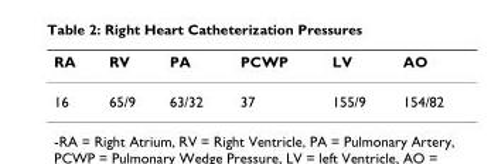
<table><thead><tr><td>RA</td><td>RV</td><td>PA</td><td>PCWP</td><td>LV</td><td>AO</td></tr></thead><tbody><tr><td>16</td><td>65/9</td><td>63/32</td><td>37</td><td>155/9</td><td>154/82</td></tr></tbody></table>